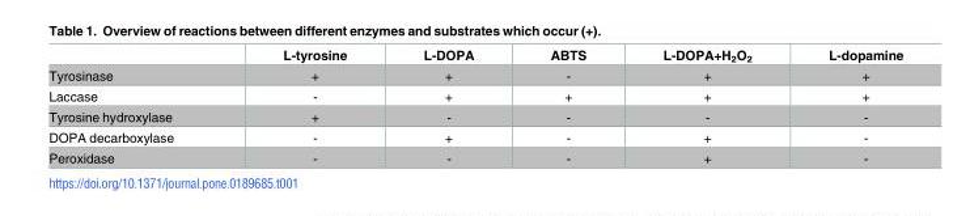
<table><thead><tr><td></td><td>L-tyrosine</td><td>L-DOPA</td><td>ABTS</td><td>L-DOPA+H<sub>2</sub>O<sub>2</sub></td><td>L-dopamine</td></tr></thead><tbody><tr><td>Tyrosinase</td><td>+</td><td>+</td><td>-</td><td>+</td><td>+</td></tr><tr><td>Laccase</td><td>-</td><td>+</td><td>+</td><td>+</td><td>+</td></tr><tr><td>Tyrosine hydroxylase</td><td>+</td><td>-</td><td>-</td><td>-</td><td>-</td></tr><tr><td>DOPA decarboxylase</td><td>-</td><td>+</td><td>-</td><td>+</td><td>-</td></tr><tr><td>Peroxidase</td><td>-</td><td>-</td><td>-</td><td>+</td><td>-</td></tr></tbody></table>